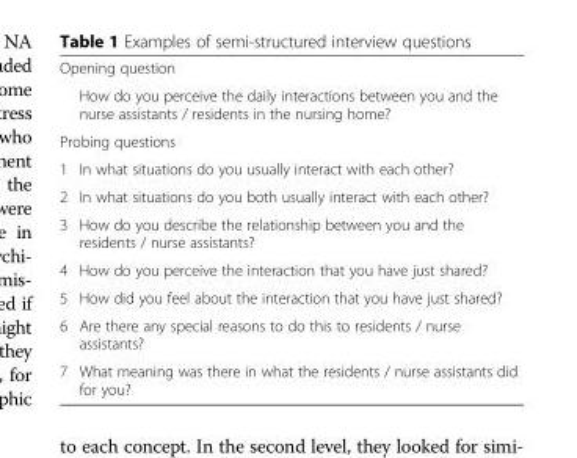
<table><tbody><tr><td colspan="2">Opening question</td></tr><tr><td></td><td>How do you perceive the daily interactions between you and the nurse assistants / residents in the nursing home?</td></tr><tr><td colspan="2">Probing questions</td></tr><tr><td>1</td><td>In what situations do you usually interact with each other?</td></tr><tr><td>2</td><td>In what situations do you both usually interact with each other?</td></tr><tr><td>3</td><td>How do you describe the relationship between you and the residents / nurse assistants?</td></tr><tr><td>4</td><td>How do you perceive the interaction that you have just shared?</td></tr><tr><td>5</td><td>How did you feel about the interaction that you have just shared?</td></tr><tr><td>6</td><td>Are there any special reasons to do this to residents / nurse assistants?</td></tr><tr><td>7</td><td>What meaning was there in what the residents / nurse assistants did for you?</td></tr></tbody></table>